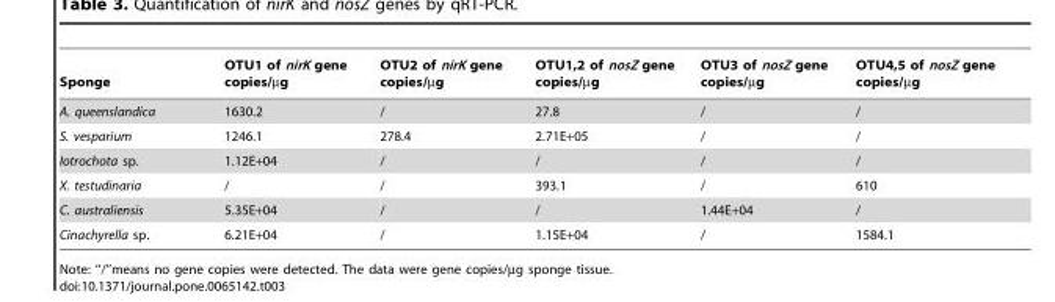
<table><thead><tr><td>Sponge</td><td>OTU1 of nirK gene copies/µg</td><td>OTU2 of nirK gene copies/µg</td><td>OTU1,2 of nosZ gene copies/µg</td><td>OTU3 of nosZ gene copies/µg</td><td>OTU4,5 of nosZ gene copies/µg</td></tr></thead><tbody><tr><td>A. queenslandica</td><td>1630.2</td><td>/</td><td>27.8</td><td>/</td><td>/</td></tr><tr><td>S. vesparium</td><td>1246.1</td><td>278.4</td><td>2.71E+05</td><td>/</td><td>/</td></tr><tr><td>Iotrochota sp.</td><td>1.12E+04</td><td>/</td><td>/</td><td>/</td><td>/</td></tr><tr><td>X. testudinaria</td><td>/</td><td>/</td><td>393.1</td><td>/</td><td>610</td></tr><tr><td>C. australiensis</td><td>5.35E+04</td><td>/</td><td>/</td><td>1.44E+04</td><td>/</td></tr><tr><td>Cinachyrella sp.</td><td>6.21E+04</td><td>/</td><td>1.15E+04</td><td>/</td><td>1584.1</td></tr></tbody></table>